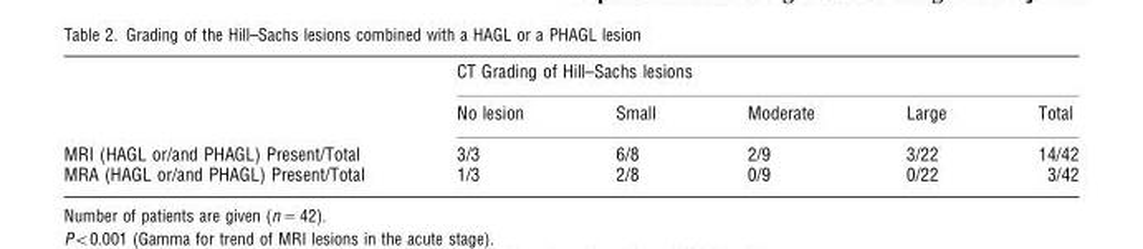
<table><thead><tr><td rowspan="2"></td><td colspan="5">CT Grading of Hill–Sachs lesions</td></tr><tr><td>No lesion</td><td>Small</td><td>Moderate</td><td>Large</td><td>Total</td></tr></thead><tbody><tr><td>MRI (HAGL or/and PHAGL) Present/Total</td><td>3/3</td><td>6/8</td><td>2/9</td><td>3/22</td><td>14/42</td></tr><tr><td>MRA (HAGL or/and PHAGL) Present/Total</td><td>1/3</td><td>2/8</td><td>0/9</td><td>0/22</td><td>3/42</td></tr></tbody></table>